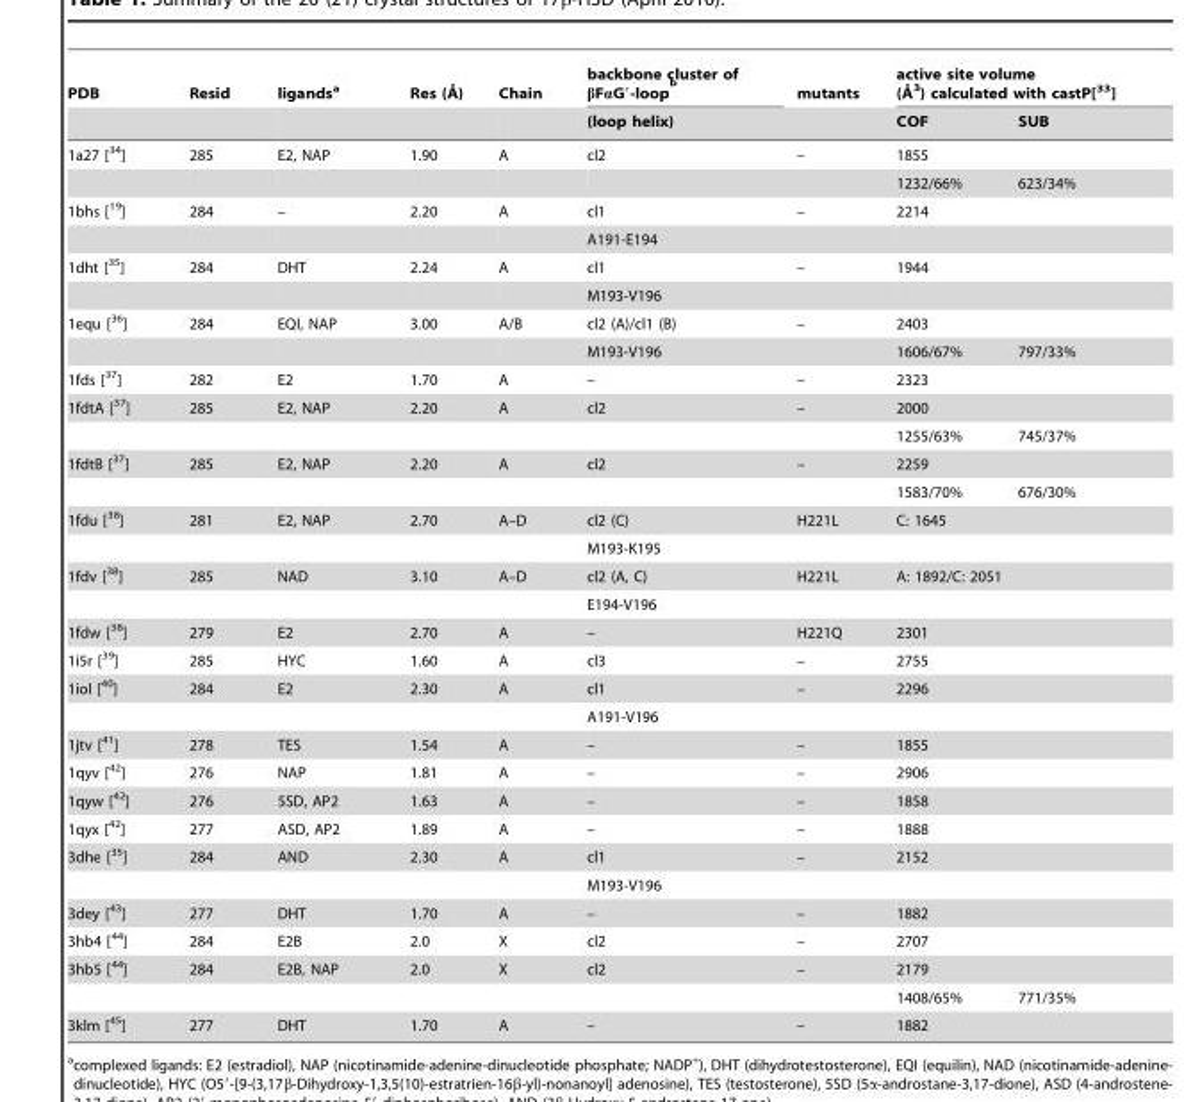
<table><thead><tr><td rowspan="2">PDB</td><td rowspan="2">Resid</td><td rowspan="2">ligands<sup>a</sup></td><td rowspan="2">Res (A˚ )</td><td rowspan="2">Chain</td><td rowspan="2">backbone cluster of βFαG′-loop <sup>b</sup> (loop helix)</td><td rowspan="2">mutants</td><td colspan="2">active site volume (A˚ 3) calculated with castP[33]</td></tr><tr><td>COF</td><td>SUB</td></tr></thead><tbody><tr><td rowspan="2">1a27 [<sup>34</sup>]</td><td>285</td><td>E2, NAP</td><td>1.90</td><td>A</td><td>cl2</td><td>–</td><td colspan="2">1855</td></tr><tr><td></td><td></td><td></td><td></td><td></td><td></td><td>1232/66%</td><td>623/34%</td></tr><tr><td rowspan="2">1bhs [<sup>19</sup>]</td><td>284</td><td>–</td><td>2.20</td><td>A</td><td>cl1</td><td>–</td><td colspan="2">2214</td></tr><tr><td></td><td></td><td></td><td></td><td>A191-E194</td><td></td><td></td><td></td></tr><tr><td rowspan="2">1dht [<sup>35</sup>]</td><td>284</td><td>DHT</td><td>2.24</td><td>A</td><td>cl1</td><td>–</td><td colspan="2">1944</td></tr><tr><td></td><td></td><td></td><td></td><td>M193-V196</td><td></td><td></td><td></td></tr><tr><td rowspan="2">1equ [<sup>36</sup>]</td><td>284</td><td>EQI, NAP</td><td>3.00</td><td>A/B</td><td>cl2 (A)/cl1 (B)</td><td>–</td><td colspan="2">2403</td></tr><tr><td></td><td></td><td></td><td></td><td>M193-V196</td><td></td><td>1606/67%</td><td>797/33%</td></tr><tr><td>1fds [<sup>37</sup>]</td><td>282</td><td>E2</td><td>1.70</td><td>A</td><td>–</td><td>–</td><td colspan="2">2323</td></tr><tr><td rowspan="2">1fdtA [<sup>37</sup>]</td><td>285</td><td>E2, NAP</td><td>2.20</td><td>A</td><td>cl2</td><td>–</td><td colspan="2">2000</td></tr><tr><td></td><td></td><td></td><td></td><td></td><td></td><td>1255/63%</td><td>745/37%</td></tr><tr><td rowspan="2">1fdtB [<sup>37</sup>]</td><td>285</td><td>E2, NAP</td><td>2.20</td><td>A</td><td>cl2</td><td>–</td><td colspan="2">2259</td></tr><tr><td></td><td></td><td></td><td></td><td></td><td></td><td>1583/70%</td><td>676/30%</td></tr><tr><td rowspan="2">1fdu [<sup>38</sup>]</td><td>281</td><td>E2, NAP</td><td>2.70</td><td>A–D</td><td>cl2 (C)</td><td>H221L</td><td colspan="2">C: 1645</td></tr><tr><td></td><td></td><td></td><td></td><td>M193-K195</td><td></td><td></td><td></td></tr><tr><td rowspan="2">1fdv [<sup>38</sup>]</td><td>285</td><td>NAD</td><td>3.10</td><td>A–D</td><td>cl2 (A, C)</td><td>H221L</td><td colspan="2">A: 1892/C: 2051</td></tr><tr><td></td><td></td><td></td><td></td><td>E194-V196</td><td></td><td></td><td></td></tr><tr><td>1fdw [<sup>38</sup>]</td><td>279</td><td>E2</td><td>2.70</td><td>A</td><td>–</td><td>H221Q</td><td colspan="2">2301</td></tr><tr><td>1i5r [<sup>39</sup>]</td><td>285</td><td>HYC</td><td>1.60</td><td>A</td><td>cl3</td><td>–</td><td colspan="2">2755</td></tr><tr><td rowspan="2">1iol [<sup>40</sup>]</td><td>284</td><td>E2</td><td>2.30</td><td>A</td><td>cl1</td><td>–</td><td colspan="2">2296</td></tr><tr><td></td><td></td><td></td><td></td><td>A191-V196</td><td></td><td></td><td></td></tr><tr><td>1jtv [<sup>41</sup>]</td><td>278</td><td>TES</td><td>1.54</td><td>A</td><td>–</td><td>–</td><td colspan="2">1855</td></tr><tr><td>1qyv [<sup>42</sup>]</td><td>276</td><td>NAP</td><td>1.81</td><td>A</td><td>–</td><td>–</td><td colspan="2">2906</td></tr><tr><td>1qyw [<sup>42</sup>]</td><td>276</td><td>5SD, AP2</td><td>1.63</td><td>A</td><td>–</td><td>–</td><td colspan="2">1858</td></tr><tr><td>1qyx [<sup>42</sup>]</td><td>277</td><td>ASD, AP2</td><td>1.89</td><td>A</td><td>–</td><td>–</td><td colspan="2">1888</td></tr><tr><td rowspan="2">3dhe [<sup>35</sup>]</td><td>284</td><td>AND</td><td>2.30</td><td>A</td><td>cl1</td><td>–</td><td colspan="2">2152</td></tr><tr><td></td><td></td><td></td><td></td><td>M193-V196</td><td></td><td></td><td></td></tr><tr><td>3dey [<sup>43</sup>]</td><td>277</td><td>DHT</td><td>1.70</td><td>A</td><td>–</td><td>–</td><td colspan="2">1882</td></tr><tr><td>3hb4 [<sup>44</sup>]</td><td>284</td><td>E2B</td><td>2.0</td><td>X</td><td>cl2</td><td>–</td><td colspan="2">2707</td></tr><tr><td rowspan="2">3hb5 [<sup>44</sup>]</td><td>284</td><td>E2B, NAP</td><td>2.0</td><td>X</td><td>cl2</td><td>–</td><td colspan="2">2179</td></tr><tr><td></td><td></td><td></td><td></td><td></td><td></td><td>1408/65%</td><td>771/35%</td></tr><tr><td>3klm [<sup>45</sup>]</td><td>277</td><td>DHT</td><td>1.70</td><td>A</td><td>–</td><td>–</td><td colspan="2">1882</td></tr></tbody></table>